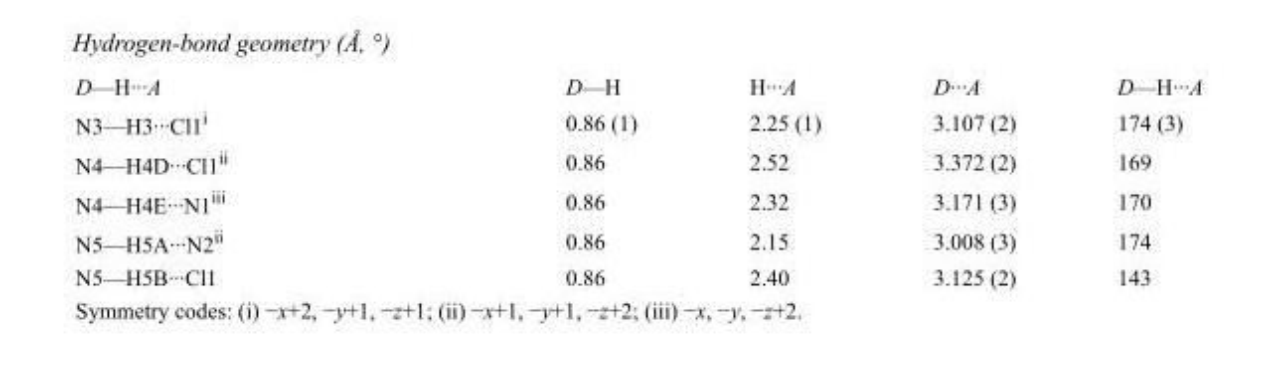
<table><tbody><tr><td>D—H···A</td><td>D—H</td><td>H···A</td><td>D···A</td><td>D—H···A</td></tr><tr><td>N3—H3···Cl1<sup>i</sup></td><td>0.86 (1)</td><td>2.25 (1)</td><td>3.107 (2)</td><td>174 (3)</td></tr><tr><td>N4—H4D···Cl1<sup>ii</sup></td><td>0.86</td><td>2.52</td><td>3.372 (2)</td><td>169</td></tr><tr><td>N4—H4E···N1<sup>iii</sup></td><td>0.86</td><td>2.32</td><td>3.171 (3)</td><td>170</td></tr><tr><td>N5—H5A···N2<sup>ii</sup></td><td>0.86</td><td>2.15</td><td>3.008 (3)</td><td>174</td></tr><tr><td>N5—H5B···Cl1</td><td>0.86</td><td>2.40</td><td>3.125 (2)</td><td>143</td></tr></tbody></table>